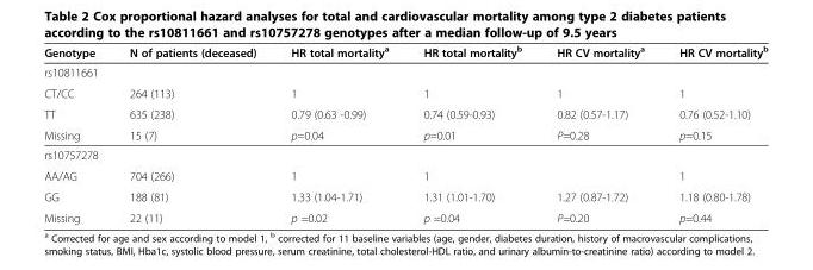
<table><thead><tr><td>Genotype</td><td>N of patients (deceased)</td><td>HR total mortality<sup>a</sup></td><td>HR total mortality<sup>b</sup></td><td>HR CV mortality<sup>a</sup></td><td>HR CV mortality<sup>b</sup></td></tr></thead><tbody><tr><td colspan="6">rs10811661</td></tr><tr><td>CT/CC</td><td>264 (113)</td><td>1</td><td>1</td><td>1</td><td>1</td></tr><tr><td>TT</td><td>635 (238)</td><td>0.79 (0.63 -0.99)</td><td>0.74 (0.59-0.93)</td><td>0.82 (0.57-1.17)</td><td>0.76 (0.52-1.10)</td></tr><tr><td>Missing</td><td>15 (7)</td><td>p=0.04</td><td>p=0.01</td><td>P=0.28</td><td>p=0.15</td></tr><tr><td colspan="6">rs10757278</td></tr><tr><td>AA/AG</td><td>704 (266)</td><td>1</td><td>1</td><td></td><td>1</td></tr><tr><td>GG</td><td>188 (81)</td><td>1.33 (1.04-1.71)</td><td>1.31 (1.01-1.70)</td><td>1.27 (0.87-1.72)</td><td>1.18 (0.80-1.78)</td></tr><tr><td>Missing</td><td>22 (11)</td><td>p =0.02</td><td>p =0.04</td><td>P=0.20</td><td>p=0.44</td></tr></tbody></table>